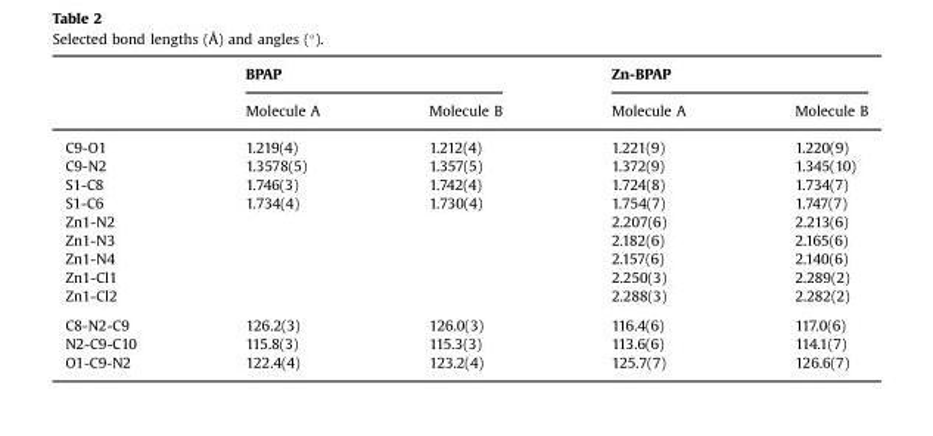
<table><thead><tr><td rowspan="2"></td><td colspan="2">BPAP</td><td colspan="2">Zn-BPAP</td></tr><tr><td>Molecule A</td><td>Molecule B</td><td>Molecule A</td><td>Molecule B</td></tr></thead><tbody><tr><td>C9-O1</td><td>1.219(4)</td><td>1.212(4)</td><td>1.221(9)</td><td>1.220(9)</td></tr><tr><td>C9-N2</td><td>1.3578(5)</td><td>1.357(5)</td><td>1.372(9)</td><td>1.345(10)</td></tr><tr><td>S1-C8</td><td>1.746(3)</td><td>1.742(4)</td><td>1.724(8)</td><td>1.734(7)</td></tr><tr><td>S1-C6</td><td>1.734(4)</td><td>1.730(4)</td><td>1.754(7)</td><td>1.747(7)</td></tr><tr><td>Zn1-N2</td><td></td><td></td><td>2.207(6)</td><td>2.213(6)</td></tr><tr><td>Zn1-N3</td><td></td><td></td><td>2.182(6)</td><td>2.165(6)</td></tr><tr><td>Zn1-N4</td><td></td><td></td><td>2.157(6)</td><td>2.140(6)</td></tr><tr><td>Zn1-Cl1</td><td></td><td></td><td>2.250(3)</td><td>2.289(2)</td></tr><tr><td>Zn1-Cl2</td><td></td><td></td><td>2.288(3)</td><td>2.282(2)</td></tr><tr><td>C8-N2-C9</td><td>126.2(3)</td><td>126.0(3)</td><td>116.4(6)</td><td>117.0(6)</td></tr><tr><td>N2-C9-C10</td><td>115.8(3)</td><td>115.3(3)</td><td>113.6(6)</td><td>114.1(7)</td></tr><tr><td>O1-C9-N2</td><td>122.4(4)</td><td>123.2(4)</td><td>125.7(7)</td><td>126.6(7)</td></tr></tbody></table>